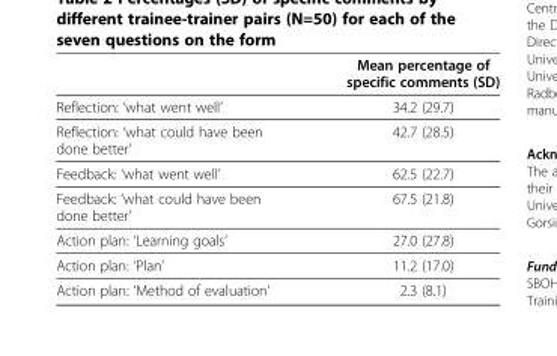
<table><thead><tr><td></td><td>Mean percentage of specific comments (SD)</td></tr></thead><tbody><tr><td>Reflection: ‘what went well’</td><td>34.2 (29.7)</td></tr><tr><td>Reflection: ‘what could have been done better’</td><td>42.7 (28.5)</td></tr><tr><td>Feedback: ‘what went well’</td><td>62.5 (22.7)</td></tr><tr><td>Feedback: ‘what could have been done better’</td><td>67.5 (21.8)</td></tr><tr><td>Action plan: ‘Learning goals’</td><td>27.0 (27.8)</td></tr><tr><td>Action plan: ‘Plan’</td><td>11.2 (17.0)</td></tr><tr><td>Action plan: ‘Method of evaluation’</td><td>2.3 (8.1)</td></tr></tbody></table>